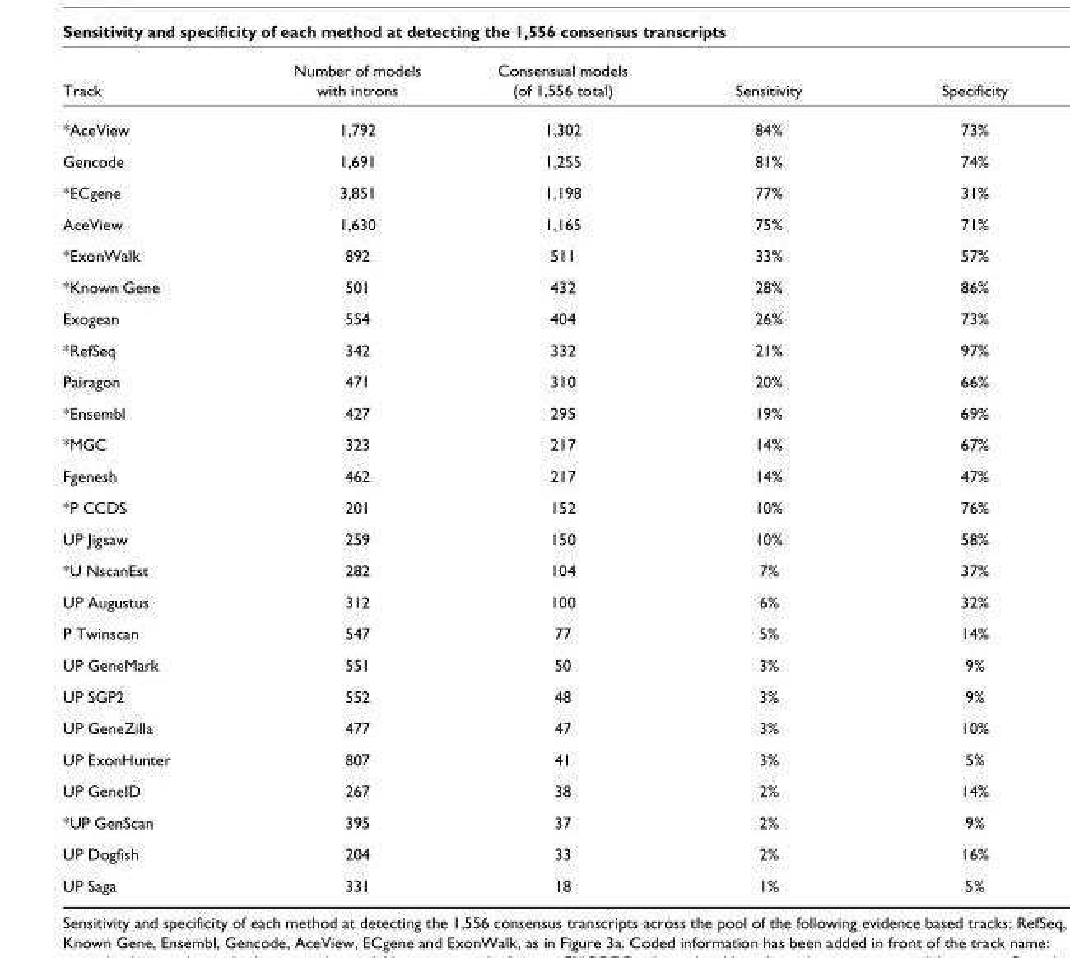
<table><thead><tr><td>Track</td><td>Number of models with introns</td><td>Consensual models (of 1,556 total)</td><td>Sensitivity</td><td>Specificity</td></tr></thead><tbody><tr><td>*AceView</td><td>1,792</td><td>1,302</td><td>84%</td><td>73%</td></tr><tr><td>Gencode</td><td>1,691</td><td>1,255</td><td>81%</td><td>74%</td></tr><tr><td>*ECgene</td><td>3,851</td><td>1,198</td><td>77%</td><td>31%</td></tr><tr><td>AceView</td><td>1,630</td><td>1,165</td><td>75%</td><td>71%</td></tr><tr><td>*ExonWalk</td><td>892</td><td>511</td><td>33%</td><td>57%</td></tr><tr><td>*Known Gene</td><td>501</td><td>432</td><td>28%</td><td>86%</td></tr><tr><td>Exogean</td><td>554</td><td>404</td><td>26%</td><td>73%</td></tr><tr><td>*RefSeq</td><td>342</td><td>332</td><td>21%</td><td>97%</td></tr><tr><td>Pairagon</td><td>471</td><td>310</td><td>20%</td><td>66%</td></tr><tr><td>*Ensembl</td><td>427</td><td>295</td><td>19%</td><td>69%</td></tr><tr><td>*MGC</td><td>323</td><td>217</td><td>14%</td><td>67%</td></tr><tr><td>Fgenesh</td><td>462</td><td>217</td><td>14%</td><td>47%</td></tr><tr><td>*P CCDS</td><td>201</td><td>152</td><td>10%</td><td>76%</td></tr><tr><td>UP Jigsaw</td><td>259</td><td>150</td><td>10%</td><td>58%</td></tr><tr><td>*U NscanEst</td><td>282</td><td>104</td><td>7%</td><td>37%</td></tr><tr><td>UP Augustus</td><td>312</td><td>100</td><td>6%</td><td>32%</td></tr><tr><td>P Twinscan</td><td>547</td><td>77</td><td>5%</td><td>14%</td></tr><tr><td>UP GeneMark</td><td>551</td><td>50</td><td>3%</td><td>9%</td></tr><tr><td>UP SGP2</td><td>552</td><td>48</td><td>3%</td><td>9%</td></tr><tr><td>UP GeneZilla</td><td>477</td><td>47</td><td>3%</td><td>10%</td></tr><tr><td>UP ExonHunter</td><td>807</td><td>41</td><td>3%</td><td>5%</td></tr><tr><td>UP GeneID</td><td>267</td><td>38</td><td>2%</td><td>14%</td></tr><tr><td>*UP GenScan</td><td>395</td><td>37</td><td>2%</td><td>9%</td></tr><tr><td>UP Dogfish</td><td>204</td><td>33</td><td>2%</td><td>16%</td></tr><tr><td>UP Saga</td><td>331</td><td>18</td><td>1%</td><td>5%</td></tr></tbody></table>